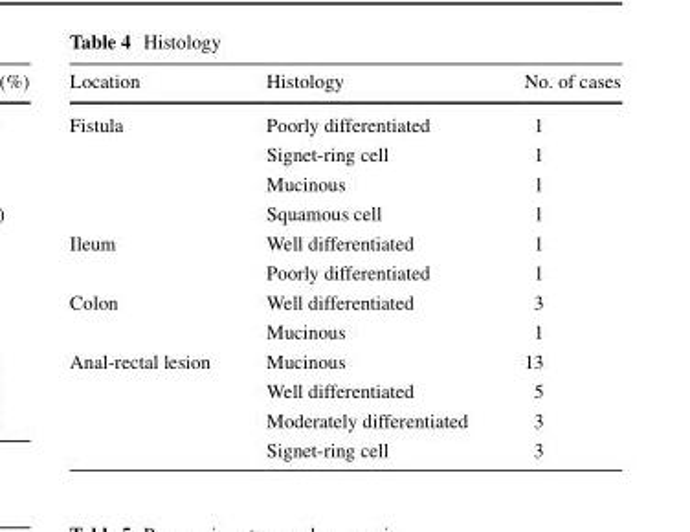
<table><thead><tr><td>Location</td><td>Histology</td><td>No. of cases</td></tr></thead><tbody><tr><td rowspan="4">Fistula</td><td>Poorly differentiated</td><td>1</td></tr><tr><td>Signet-ring cell</td><td>1</td></tr><tr><td>Mucinous</td><td>1</td></tr><tr><td>Squamous cell</td><td>1</td></tr><tr><td rowspan="2">Ileum</td><td>Well differentiated</td><td>1</td></tr><tr><td>Poorly differentiated</td><td>1</td></tr><tr><td rowspan="2">Colon</td><td>Well differentiated</td><td>3</td></tr><tr><td>Mucinous</td><td>1</td></tr><tr><td rowspan="4">Anal-rectal lesion</td><td>Mucinous</td><td>13</td></tr><tr><td>Well differentiated</td><td>5</td></tr><tr><td>Moderately differentiated</td><td>3</td></tr><tr><td>Signet-ring cell</td><td>3</td></tr></tbody></table>